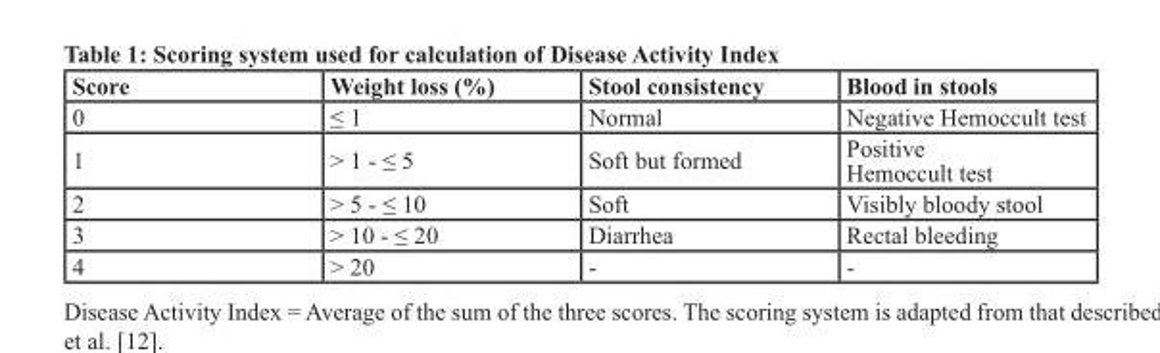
<table><thead><tr><td>Score</td><td>Weight loss (%)</td><td>Stool consistency</td><td>Blood in stools</td></tr></thead><tbody><tr><td>0</td><td>≤ 1</td><td>Normal</td><td>Negative Hemoccult test</td></tr><tr><td>1</td><td>&gt; 1 - ≤ 5</td><td>Soft but formed</td><td>Positive Hemoccult test</td></tr><tr><td>2</td><td>&gt; 5 - ≤ 10</td><td>Soft</td><td>Visibly bloody stool</td></tr><tr><td>3</td><td>&gt; 10 - ≤ 20</td><td>Diarrhea</td><td>Rectal bleeding</td></tr><tr><td>4</td><td>&gt; 20</td><td>-</td><td>-</td></tr></tbody></table>